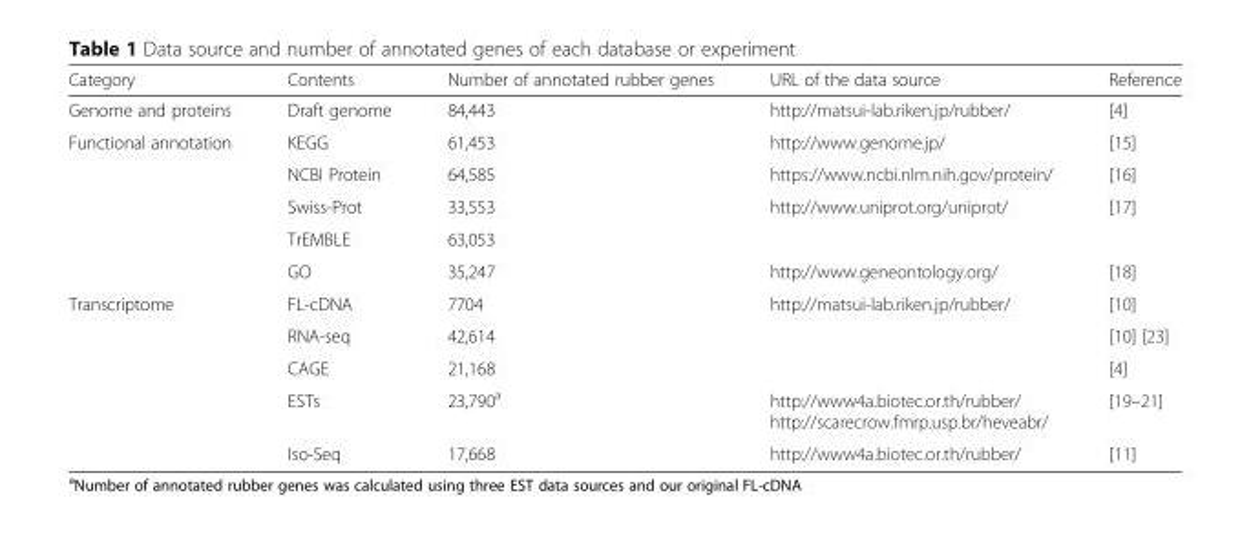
<table><thead><tr><td>Category</td><td>Contents</td><td>Number of annotated rubber genes</td><td>URL of the data source</td><td>Reference</td></tr></thead><tbody><tr><td>Genome and proteins</td><td>Draft genome</td><td>84,443</td><td>http://matsui-lab.riken.jp/rubber/</td><td>[4]</td></tr><tr><td rowspan="5">Functional annotation</td><td>KEGG</td><td>61,453</td><td>http://www.genome.jp/</td><td>[15]</td></tr><tr><td>NCBI Protein</td><td>64,585</td><td>https://www.ncbi.nlm.nih.gov/protein/</td><td>[16]</td></tr><tr><td>Swiss-Prot</td><td>33,553</td><td rowspan="2">http://www.uniprot.org/uniprot/</td><td rowspan="2">[17]</td></tr><tr><td>TrEMBLE</td><td>63,053</td></tr><tr><td>GO</td><td>35,247</td><td>http://www.geneontology.org/</td><td>[18]</td></tr><tr><td rowspan="5">Transcriptome</td><td>FL-cDNA</td><td>7704</td><td rowspan="3">http://matsui-lab.riken.jp/rubber/</td><td>[10]</td></tr><tr><td>RNA-seq</td><td>42,614</td><td>[10] [23]</td></tr><tr><td>CAGE</td><td>21,168</td><td>[4]</td></tr><tr><td>ESTs</td><td>23,790<sup>a</sup></td><td>http://www4a.biotec.or.th/rubber/ http://scarecrow.fmrp.usp.br/heveabr/</td><td>[19–21]</td></tr><tr><td>Iso-Seq</td><td>17,668</td><td>http://www4a.biotec.or.th/rubber/</td><td>[11]</td></tr></tbody></table>